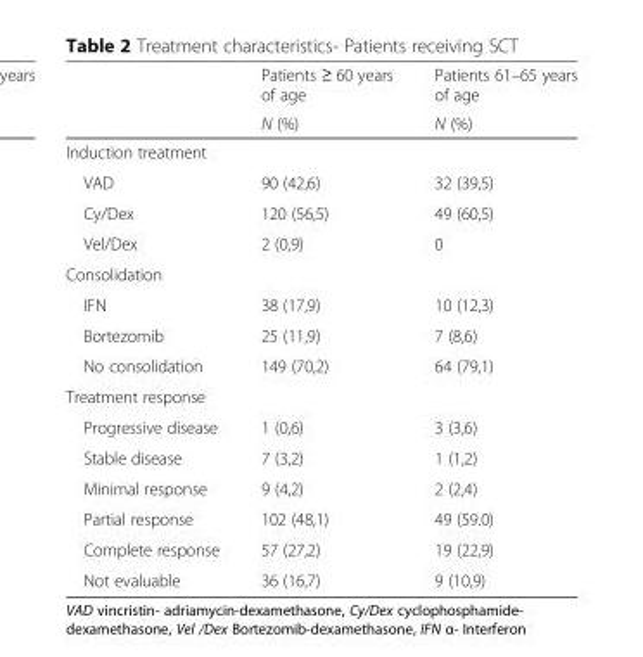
<table><thead><tr><td rowspan="2"></td><td rowspan="2">Patients ≥ 60 years of age N (%)</td><td rowspan="2">Patients 61–65 years of age N (%)</td></tr><tr></tr></thead><tbody><tr><td colspan="3">Induction treatment</td></tr><tr><td>VAD</td><td>90 (42,6)</td><td>32 (39,5)</td></tr><tr><td>Cy/Dex</td><td>120 (56,5)</td><td>49 (60,5)</td></tr><tr><td>Vel/Dex</td><td>2 (0,9)</td><td>0</td></tr><tr><td colspan="3">Consolidation</td></tr><tr><td>IFN</td><td>38 (17,9)</td><td>10 (12,3)</td></tr><tr><td>Bortezomib</td><td>25 (11,9)</td><td>7 (8,6)</td></tr><tr><td>No consolidation</td><td>149 (70,2)</td><td>64 (79,1)</td></tr><tr><td colspan="3">Treatment response</td></tr><tr><td>Progressive disease</td><td>1 (0,6)</td><td>3 (3,6)</td></tr><tr><td>Stable disease</td><td>7 (3,2)</td><td>1 (1,2)</td></tr><tr><td>Minimal response</td><td>9 (4,2)</td><td>2 (2,4)</td></tr><tr><td>Partial response</td><td>102 (48,1)</td><td>49 (59.0)</td></tr><tr><td>Complete response</td><td>57 (27,2)</td><td>19 (22,9)</td></tr><tr><td>Not evaluable</td><td>36 (16,7)</td><td>9 (10,9)</td></tr></tbody></table>